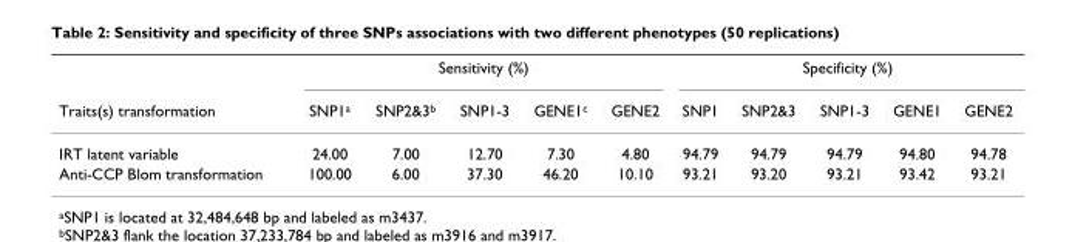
<table><thead><tr><td rowspan="2">Traits(s) transformation</td><td colspan="5">Sensitivity (%)</td><td colspan="5">Specificity (%)</td></tr><tr><td>SNP1<sup>a</sup></td><td>SNP2&amp;3<sup>b</sup></td><td>SNP1-3</td><td>GENE1<sup>c</sup></td><td>GENE2</td><td>SNP1</td><td>SNP2&amp;3</td><td>SNP1-3</td><td>GENE1</td><td>GENE2</td></tr></thead><tbody><tr><td>IRT latent variable</td><td>24.00</td><td>7.00</td><td>12.70</td><td>7.30</td><td>4.80</td><td>94.79</td><td>94.79</td><td>94.79</td><td>94.80</td><td>94.78</td></tr><tr><td>Anti-CCP Blom transformation</td><td>100.00</td><td>6.00</td><td>37.30</td><td>46.20</td><td>10.10</td><td>93.21</td><td>93.20</td><td>93.21</td><td>93.42</td><td>93.21</td></tr></tbody></table>